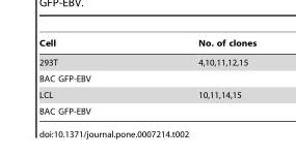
<table><thead><tr><td>Cell</td><td>No. of clones</td></tr></thead><tbody><tr><td>293T</td><td>4,10,11,12,15</td></tr><tr><td colspan="2">BAC GFP-EBV</td></tr><tr><td>LCL</td><td>10,11,14,15</td></tr><tr><td>BAC GFP-EBV</td><td></td></tr></tbody></table>